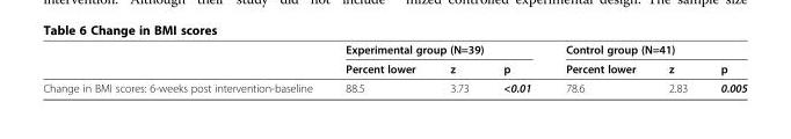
<table><thead><tr><td rowspan="2"></td><td colspan="3">Experimental group (N=39)</td><td colspan="3">Control group (N=41)</td></tr><tr><td>Percent lower</td><td>z</td><td>p</td><td>Percent lower</td><td>z</td><td>p</td></tr></thead><tbody><tr><td>Change in BMI scores: 6-weeks post intervention-baseline</td><td>88.5</td><td>3.73</td><td>&lt;0.01</td><td>78.6</td><td>2.83</td><td>0.005</td></tr></tbody></table>